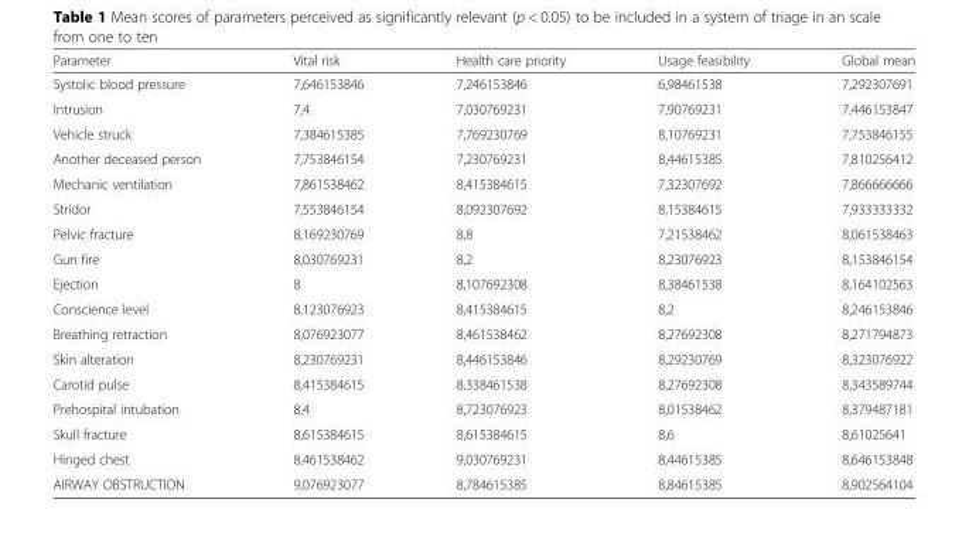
<table><thead><tr><td>Parameter</td><td>Vital risk</td><td>Health care priority</td><td>Usage feasibility</td><td>Global mean</td></tr></thead><tbody><tr><td>Systolic blood pressure</td><td>7,646153846</td><td>7,246153846</td><td>6,98461538</td><td>7,292307691</td></tr><tr><td>Intrusion</td><td>7,4</td><td>7,030769231</td><td>7,90769231</td><td>7,446153847</td></tr><tr><td>Vehicle struck</td><td>7,384615385</td><td>7,769230769</td><td>8,10769231</td><td>7,753846155</td></tr><tr><td>Another deceased person</td><td>7,753846154</td><td>7,230769231</td><td>8,44615385</td><td>7,810256412</td></tr><tr><td>Mechanic ventilation</td><td>7,861538462</td><td>8,415384615</td><td>7,32307692</td><td>7,866666666</td></tr><tr><td>Stridor</td><td>7,553846154</td><td>8,092307692</td><td>8,15384615</td><td>7,933333332</td></tr><tr><td>Pelvic fracture</td><td>8,169230769</td><td>8,8</td><td>7,21538462</td><td>8,061538463</td></tr><tr><td>Gun fire</td><td>8,030769231</td><td>8,2</td><td>8,23076923</td><td>8,153846154</td></tr><tr><td>Ejection</td><td>8</td><td>8,107692308</td><td>8,38461538</td><td>8,164102563</td></tr><tr><td>Conscience level</td><td>8,123076923</td><td>8,415384615</td><td>8,2</td><td>8,246153846</td></tr><tr><td>Breathing retraction</td><td>8,076923077</td><td>8,461538462</td><td>8,27692308</td><td>8,271794873</td></tr><tr><td>Skin alteration</td><td>8,230769231</td><td>8,446153846</td><td>8,29230769</td><td>8,323076922</td></tr><tr><td>Carotid pulse</td><td>8,415384615</td><td>8,338461538</td><td>8,27692308</td><td>8,343589744</td></tr><tr><td>Prehospital intubation</td><td>8,4</td><td>8,723076923</td><td>8,01538462</td><td>8,379487181</td></tr><tr><td>Skull fracture</td><td>8,615384615</td><td>8,615384615</td><td>8,6</td><td>8,61025641</td></tr><tr><td>Hinged chest</td><td>8,461538462</td><td>9,030769231</td><td>8,44615385</td><td>8,646153848</td></tr><tr><td>AIRWAY OBSTRUCTION</td><td>9,076923077</td><td>8,784615385</td><td>8,84615385</td><td>8,902564104</td></tr></tbody></table>